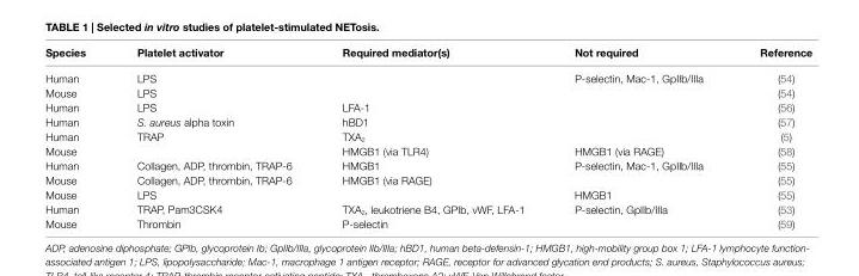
<table><thead><tr><td>Species</td><td>Platelet activator</td><td>Required mediator(s)</td><td>Not required</td><td>Reference</td></tr></thead><tbody><tr><td>Human</td><td>LPS</td><td></td><td>P-selectin, Mac-1, GpIIb/IIIa</td><td>(54)</td></tr><tr><td>Mouse</td><td>LPS</td><td></td><td></td><td>(54)</td></tr><tr><td>Human</td><td>LPS</td><td>LFA-1</td><td></td><td>(56)</td></tr><tr><td>Human</td><td>S. aureus alpha toxin</td><td>hBD1</td><td></td><td>(57)</td></tr><tr><td>Human</td><td>TRAP</td><td>TXA<sub>2</sub></td><td></td><td>(5)</td></tr><tr><td>Mouse</td><td></td><td>HMGB1 (via TLR4)</td><td>HMGB1 (via RAGE)</td><td>(58)</td></tr><tr><td>Human</td><td>Collagen, ADP, thrombin, TRAP-6</td><td>HMGB1</td><td>P-selectin, Mac-1, GpIIb/IIIa</td><td>(55)</td></tr><tr><td>Mouse</td><td>Collagen, ADP, thrombin, TRAP-6</td><td>HMGB1 (via RAGE)</td><td></td><td>(55)</td></tr><tr><td>Mouse</td><td>LPS</td><td></td><td>HMGB1</td><td>(55)</td></tr><tr><td>Human</td><td>TRAP, Pam3CSK4</td><td>TXA<sub>2</sub>, leukotriene B4, GPIb, vWF, LFA-1</td><td>P-selectin, GpIIb/IIIa</td><td>(53)</td></tr><tr><td>Mouse</td><td>Thrombin</td><td>P-selectin</td><td></td><td>(59)</td></tr></tbody></table>